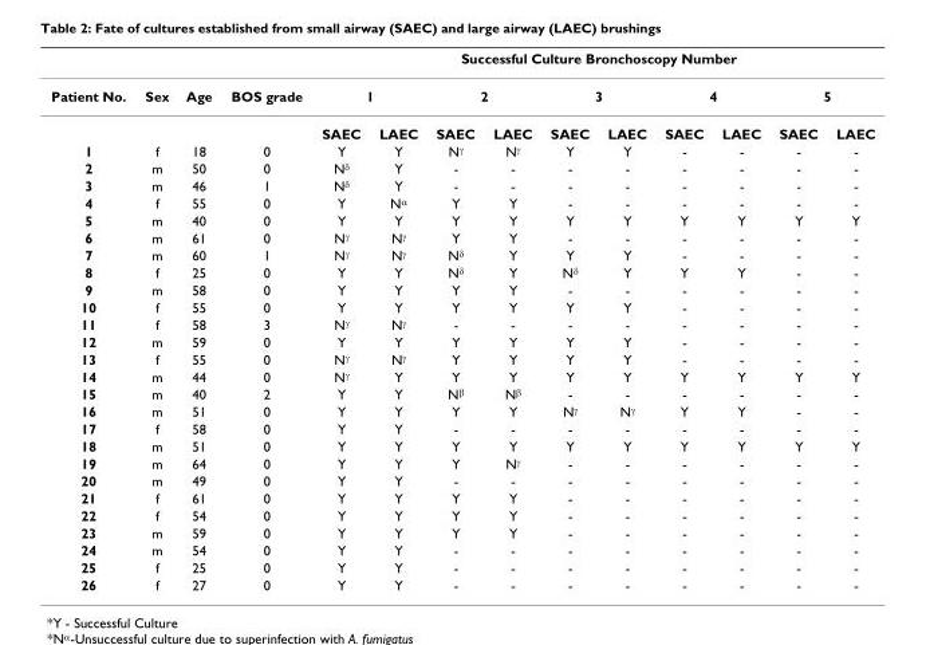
<table><thead><tr><td rowspan="3">Patient No.</td><td rowspan="3">Sex</td><td rowspan="3">Age</td><td rowspan="3">BOS grade</td><td colspan="10">Successful Culture Bronchoscopy Number</td></tr><tr><td colspan="2">1</td><td colspan="2">2</td><td colspan="2">3</td><td colspan="2">4</td><td colspan="2">5</td></tr><tr><td>SAEC</td><td>LAEC</td><td>SAEC</td><td>LAEC</td><td>SAEC</td><td>LAEC</td><td>SAEC</td><td>LAEC</td><td>SAEC</td><td>LAEC</td></tr></thead><tbody><tr><td>1</td><td>f</td><td>18</td><td>0</td><td>Y</td><td>Y</td><td>N<sup>γ</sup></td><td>N<sup>γ</sup></td><td>Y</td><td>Y</td><td>-</td><td>-</td><td>-</td><td>-</td></tr><tr><td>2</td><td>m</td><td>50</td><td>0</td><td>N<sup>δ</sup></td><td>Y</td><td>-</td><td>-</td><td>-</td><td>-</td><td>-</td><td>-</td><td>-</td><td>-</td></tr><tr><td>3</td><td>m</td><td>46</td><td>1</td><td>N<sup>δ</sup></td><td>Y</td><td>-</td><td>-</td><td>-</td><td>-</td><td>-</td><td>-</td><td>-</td><td>-</td></tr><tr><td>4</td><td>f</td><td>55</td><td>0</td><td>Y</td><td>N<sup>α</sup></td><td>Y</td><td>Y</td><td>-</td><td>-</td><td>-</td><td>-</td><td>-</td><td>-</td></tr><tr><td>5</td><td>m</td><td>40</td><td>0</td><td>Y</td><td>Y</td><td>Y</td><td>Y</td><td>Y</td><td>Y</td><td>Y</td><td>Y</td><td>Y</td><td>Y</td></tr><tr><td>6</td><td>m</td><td>61</td><td>0</td><td>N<sup>γ</sup></td><td>N<sup>γ</sup></td><td>Y</td><td>Y</td><td>-</td><td>-</td><td>-</td><td>-</td><td>-</td><td>-</td></tr><tr><td>7</td><td>m</td><td>60</td><td>1</td><td>N<sup>γ</sup></td><td>N<sup>γ</sup></td><td>N<sup>δ</sup></td><td>Y</td><td>Y</td><td>Y</td><td>-</td><td>-</td><td>-</td><td>-</td></tr><tr><td>8</td><td>f</td><td>25</td><td>0</td><td>Y</td><td>Y</td><td>N<sup>δ</sup></td><td>Y</td><td>N<sup>δ</sup></td><td>Y</td><td>Y</td><td>Y</td><td>-</td><td>-</td></tr><tr><td>9</td><td>m</td><td>58</td><td>0</td><td>Y</td><td>Y</td><td>Y</td><td>Y</td><td>-</td><td>-</td><td>-</td><td>-</td><td>-</td><td>-</td></tr><tr><td>10</td><td>f</td><td>55</td><td>0</td><td>Y</td><td>Y</td><td>Y</td><td>Y</td><td>Y</td><td>Y</td><td>-</td><td>-</td><td>-</td><td>-</td></tr><tr><td>11</td><td>f</td><td>58</td><td>3</td><td>N<sup>γ</sup></td><td>N<sup>γ</sup></td><td>-</td><td>-</td><td>-</td><td>-</td><td>-</td><td>-</td><td>-</td><td>-</td></tr><tr><td>12</td><td>m</td><td>59</td><td>0</td><td>Y</td><td>Y</td><td>Y</td><td>Y</td><td>Y</td><td>Y</td><td>-</td><td>-</td><td>-</td><td>-</td></tr><tr><td>13</td><td>f</td><td>55</td><td>0</td><td>N<sup>γ</sup></td><td>N<sup>γ</sup></td><td>Y</td><td>Y</td><td>Y</td><td>Y</td><td>-</td><td>-</td><td>-</td><td>-</td></tr><tr><td>14</td><td>m</td><td>44</td><td>0</td><td>N<sup>γ</sup></td><td>Y</td><td>Y</td><td>Y</td><td>Y</td><td>Y</td><td>Y</td><td>Y</td><td>Y</td><td>Y</td></tr><tr><td>15</td><td>m</td><td>40</td><td>2</td><td>Y</td><td>Y</td><td>N<sup>β</sup></td><td>N<sup>β</sup></td><td>-</td><td>-</td><td>-</td><td>-</td><td>-</td><td>-</td></tr><tr><td>16</td><td>m</td><td>51</td><td>0</td><td>Y</td><td>Y</td><td>Y</td><td>Y</td><td>N<sup>γ</sup></td><td>N<sup>γ</sup></td><td>Y</td><td>Y</td><td>-</td><td>-</td></tr><tr><td>17</td><td>f</td><td>58</td><td>0</td><td>Y</td><td>Y</td><td>-</td><td>-</td><td>-</td><td>-</td><td>-</td><td>-</td><td>-</td><td>-</td></tr><tr><td>18</td><td>m</td><td>51</td><td>0</td><td>Y</td><td>Y</td><td>Y</td><td>Y</td><td>Y</td><td>Y</td><td>Y</td><td>Y</td><td>Y</td><td>Y</td></tr><tr><td>19</td><td>m</td><td>64</td><td>0</td><td>Y</td><td>Y</td><td>Y</td><td>N<sup>γ</sup></td><td>-</td><td>-</td><td>-</td><td>-</td><td>-</td><td>-</td></tr><tr><td>20</td><td>m</td><td>49</td><td>0</td><td>Y</td><td>Y</td><td>-</td><td>-</td><td>-</td><td>-</td><td>-</td><td>-</td><td>-</td><td>-</td></tr><tr><td>21</td><td>f</td><td>61</td><td>0</td><td>Y</td><td>Y</td><td>Y</td><td>Y</td><td>-</td><td>-</td><td>-</td><td>-</td><td>-</td><td>-</td></tr><tr><td>22</td><td>f</td><td>54</td><td>0</td><td>Y</td><td>Y</td><td>Y</td><td>Y</td><td>-</td><td>-</td><td>-</td><td>-</td><td>-</td><td>-</td></tr><tr><td>23</td><td>m</td><td>59</td><td>0</td><td>Y</td><td>Y</td><td>Y</td><td>Y</td><td>-</td><td>-</td><td>-</td><td>-</td><td>-</td><td>-</td></tr><tr><td>24</td><td>m</td><td>54</td><td>0</td><td>Y</td><td>Y</td><td>-</td><td>-</td><td>-</td><td>-</td><td>-</td><td>-</td><td>-</td><td>-</td></tr><tr><td>25</td><td>f</td><td>25</td><td>0</td><td>Y</td><td>Y</td><td>-</td><td>-</td><td>-</td><td>-</td><td>-</td><td>-</td><td>-</td><td>-</td></tr><tr><td>26</td><td>f</td><td>27</td><td>0</td><td>Y</td><td>Y</td><td>-</td><td>-</td><td>-</td><td>-</td><td>-</td><td>-</td><td>-</td><td>-</td></tr></tbody></table>